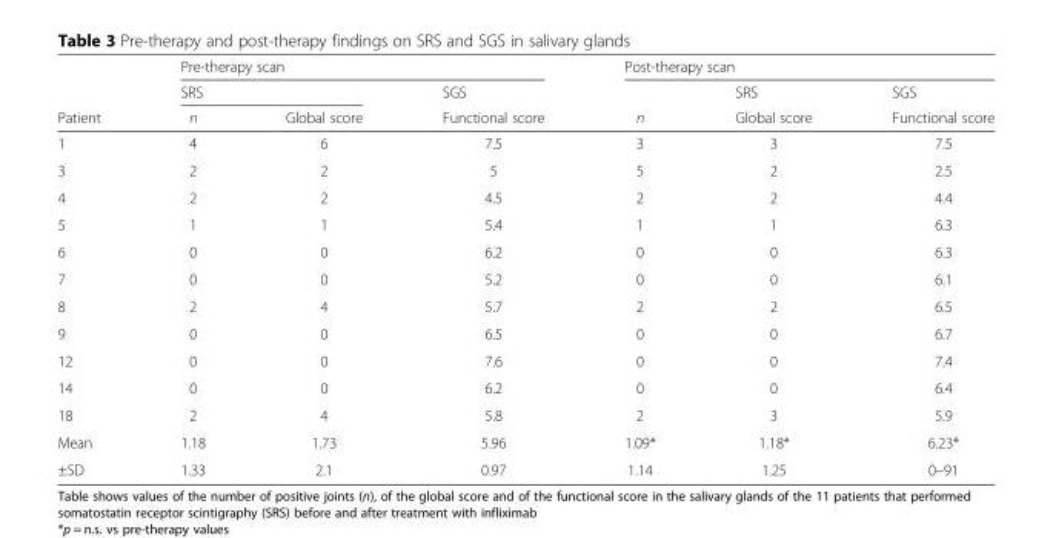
<table><thead><tr><td rowspan="3">Patient</td><td colspan="3">Pre-therapy scan</td><td colspan="3">Post-therapy scan</td></tr><tr><td colspan="2">SRS</td><td rowspan="2">SGS Functional score</td><td rowspan="2">n</td><td rowspan="2">SRS Global score</td><td rowspan="2">SGS Functional score</td></tr><tr><td>n</td><td>Global score</td></tr></thead><tbody><tr><td>1</td><td>4</td><td>6</td><td>7.5</td><td>3</td><td>3</td><td>7.5</td></tr><tr><td>3</td><td>2</td><td>2</td><td>5</td><td>5</td><td>2</td><td>2.5</td></tr><tr><td>4</td><td>2</td><td>2</td><td>4.5</td><td>2</td><td>2</td><td>4.4</td></tr><tr><td>5</td><td>1</td><td>1</td><td>5.4</td><td>1</td><td>1</td><td>6.3</td></tr><tr><td>6</td><td>0</td><td>0</td><td>6.2</td><td>0</td><td>0</td><td>6.3</td></tr><tr><td>7</td><td>0</td><td>0</td><td>5.2</td><td>0</td><td>0</td><td>6.1</td></tr><tr><td>8</td><td>2</td><td>4</td><td>5.7</td><td>2</td><td>2</td><td>6.5</td></tr><tr><td>9</td><td>0</td><td>0</td><td>6.5</td><td>0</td><td>0</td><td>6.7</td></tr><tr><td>12</td><td>0</td><td>0</td><td>7.6</td><td>0</td><td>0</td><td>7.4</td></tr><tr><td>14</td><td>0</td><td>0</td><td>6.2</td><td>0</td><td>0</td><td>6.4</td></tr><tr><td>18</td><td>2</td><td>4</td><td>5.8</td><td>2</td><td>3</td><td>5.9</td></tr><tr><td>Mean</td><td>1.18</td><td>1.73</td><td>5.96</td><td>1.09*</td><td>1.18*</td><td>6.23*</td></tr><tr><td>±SD</td><td>1.33</td><td>2.1</td><td>0.97</td><td>1.14</td><td>1.25</td><td>0–91</td></tr></tbody></table>